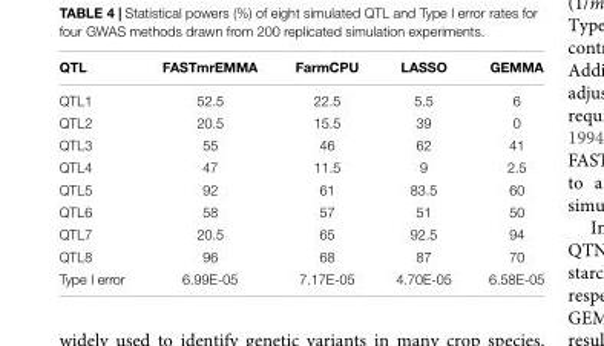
<table><thead><tr><td>QTL</td><td>FASTmrEMMA</td><td>FarmCPU</td><td>LASSO</td><td>GEMMA</td></tr></thead><tbody><tr><td>QTL1</td><td>52.5</td><td>22.5</td><td>5.5</td><td>6</td></tr><tr><td>QTL2</td><td>20.5</td><td>15.5</td><td>39</td><td>0</td></tr><tr><td>QTL3</td><td>55</td><td>46</td><td>62</td><td>41</td></tr><tr><td>QTL4</td><td>47</td><td>11.5</td><td>9</td><td>2.5</td></tr><tr><td>QTL5</td><td>92</td><td>61</td><td>83.5</td><td>60</td></tr><tr><td>QTL6</td><td>58</td><td>57</td><td>51</td><td>50</td></tr><tr><td>QTL7</td><td>20.5</td><td>65</td><td>92.5</td><td>94</td></tr><tr><td>QTL8</td><td>96</td><td>68</td><td>87</td><td>70</td></tr><tr><td>Type I error</td><td>6.99E-05</td><td>7.17E-05</td><td>4.70E-05</td><td>6.58E-05</td></tr></tbody></table>